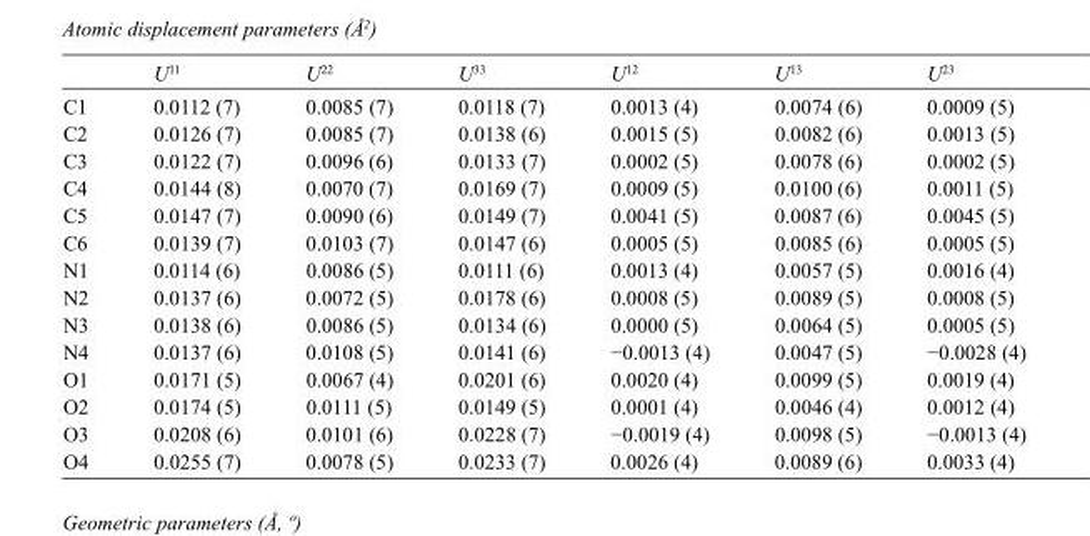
<table><thead><tr><td></td><td>U<sup>11</sup></td><td>U<sup>22</sup></td><td>U<sup>33</sup></td><td>U<sup>12</sup></td><td>U<sup>13</sup></td><td>U<sup>23</sup></td></tr></thead><tbody><tr><td>C1</td><td>0.0112 (7)</td><td>0.0085 (7)</td><td>0.0118 (7)</td><td>0.0013 (4)</td><td>0.0074 (6)</td><td>0.0009 (5)</td></tr><tr><td>C2</td><td>0.0126 (7)</td><td>0.0085 (7)</td><td>0.0138 (6)</td><td>0.0015 (5)</td><td>0.0082 (6)</td><td>0.0013 (5)</td></tr><tr><td>C3</td><td>0.0122 (7)</td><td>0.0096 (6)</td><td>0.0133 (7)</td><td>0.0002 (5)</td><td>0.0078 (6)</td><td>0.0002 (5)</td></tr><tr><td>C4</td><td>0.0144 (8)</td><td>0.0070 (7)</td><td>0.0169 (7)</td><td>0.0009 (5)</td><td>0.0100 (6)</td><td>0.0011 (5)</td></tr><tr><td>C5</td><td>0.0147 (7)</td><td>0.0090 (6)</td><td>0.0149 (7)</td><td>0.0041 (5)</td><td>0.0087 (6)</td><td>0.0045 (5)</td></tr><tr><td>C6</td><td>0.0139 (7)</td><td>0.0103 (7)</td><td>0.0147 (6)</td><td>0.0005 (5)</td><td>0.0085 (6)</td><td>0.0005 (5)</td></tr><tr><td>N1</td><td>0.0114 (6)</td><td>0.0086 (5)</td><td>0.0111 (6)</td><td>0.0013 (4)</td><td>0.0057 (5)</td><td>0.0016 (4)</td></tr><tr><td>N2</td><td>0.0137 (6)</td><td>0.0072 (5)</td><td>0.0178 (6)</td><td>0.0008 (5)</td><td>0.0089 (5)</td><td>0.0008 (5)</td></tr><tr><td>N3</td><td>0.0138 (6)</td><td>0.0086 (5)</td><td>0.0134 (6)</td><td>0.0000 (5)</td><td>0.0064 (5)</td><td>0.0005 (5)</td></tr><tr><td>N4</td><td>0.0137 (6)</td><td>0.0108 (5)</td><td>0.0141 (6)</td><td>−0.0013 (4)</td><td>0.0047 (5)</td><td>−0.0028 (4)</td></tr><tr><td>O1</td><td>0.0171 (5)</td><td>0.0067 (4)</td><td>0.0201 (6)</td><td>0.0020 (4)</td><td>0.0099 (5)</td><td>0.0019 (4)</td></tr><tr><td>O2</td><td>0.0174 (5)</td><td>0.0111 (5)</td><td>0.0149 (5)</td><td>0.0001 (4)</td><td>0.0046 (4)</td><td>0.0012 (4)</td></tr><tr><td>O3</td><td>0.0208 (6)</td><td>0.0101 (6)</td><td>0.0228 (7)</td><td>−0.0019 (4)</td><td>0.0098 (5)</td><td>−0.0013 (4)</td></tr><tr><td>O4</td><td>0.0255 (7)</td><td>0.0078 (5)</td><td>0.0233 (7)</td><td>0.0026 (4)</td><td>0.0089 (6)</td><td>0.0033 (4)</td></tr></tbody></table>